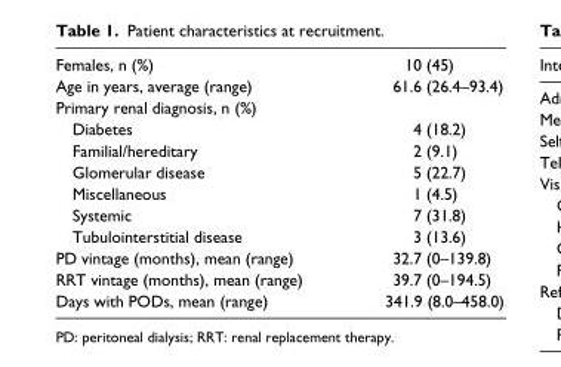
<table><tbody><tr><td>Females, n (%)</td><td>10 (45)</td></tr><tr><td>Age in years, average (range)</td><td>61.6 (26.4–93.4)</td></tr><tr><td colspan="2">Primary renal diagnosis, n (%)</td></tr><tr><td>Diabetes</td><td>4 (18.2)</td></tr><tr><td>Familial/hereditary</td><td>2 (9.1)</td></tr><tr><td>Glomerular disease</td><td>5 (22.7)</td></tr><tr><td>Miscellaneous</td><td>1 (4.5)</td></tr><tr><td>Systemic</td><td>7 (31.8)</td></tr><tr><td>Tubulointerstitial disease</td><td>3 (13.6)</td></tr><tr><td>PD vintage (months), mean (range)</td><td>32.7 (0–139.8)</td></tr><tr><td>RRT vintage (months), mean (range)</td><td>39.7 (0–194.5)</td></tr><tr><td>Days with PODs, mean (range)</td><td>341.9 (8.0–458.0)</td></tr></tbody></table>